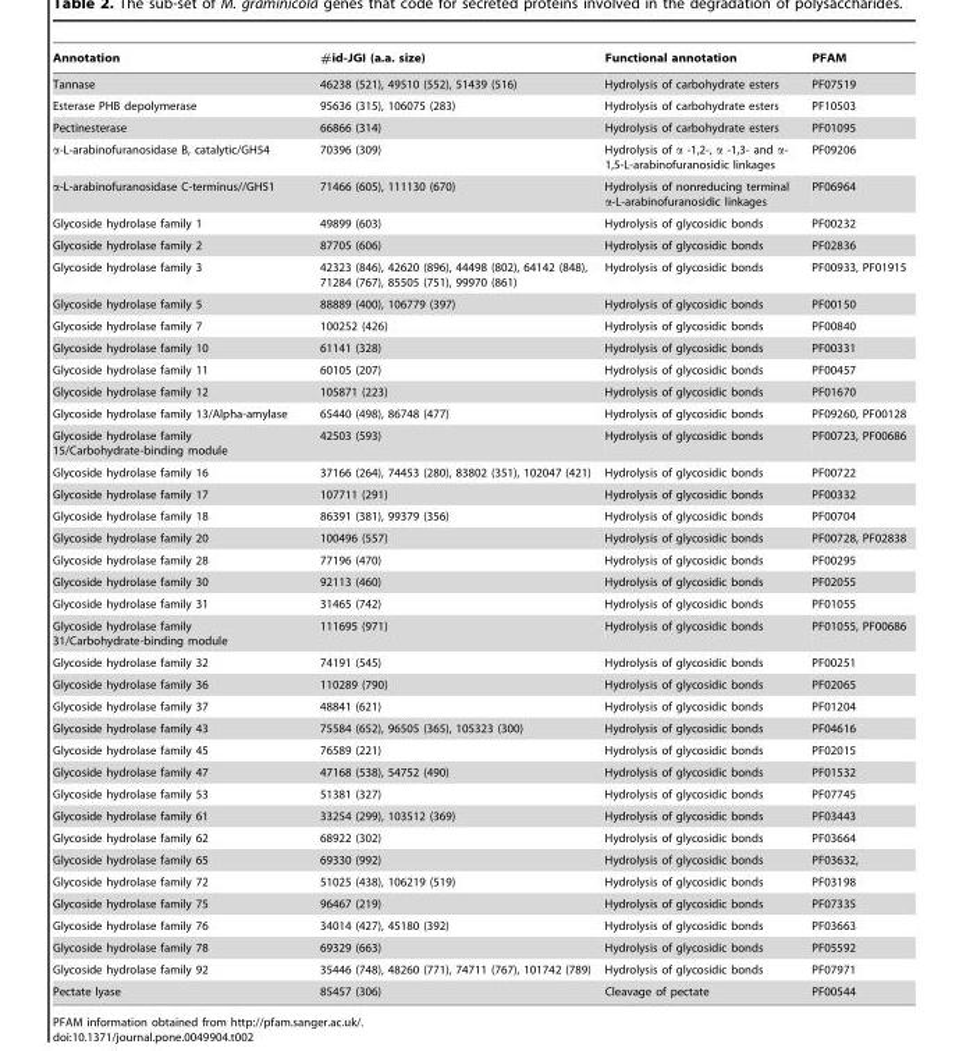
<table><thead><tr><td>Annotation</td><td>#id-JGI (a.a. size)</td><td>Functional annotation</td><td>PFAM</td></tr></thead><tbody><tr><td>Tannase</td><td>46238 (521), 49510 (552), 51439 (516)</td><td>Hydrolysis of carbohydrate esters</td><td>PF07519</td></tr><tr><td>Esterase PHB depolymerase</td><td>95636 (315), 106075 (283)</td><td>Hydrolysis of carbohydrate esters</td><td>PF10503</td></tr><tr><td>Pectinesterase</td><td>66866 (314)</td><td>Hydrolysis of carbohydrate esters</td><td>PF01095</td></tr><tr><td>α-L-arabinofuranosidase B, catalytic/GH54</td><td>70396 (309)</td><td>Hydrolysis of α -1,2-, α -1,3- and α- 1,5-L-arabinofuranosidic linkages</td><td>PF09206</td></tr><tr><td>α-L-arabinofuranosidase C-terminus//GH51</td><td>71466 (605), 111130 (670)</td><td>Hydrolysis of nonreducing terminal α-L-arabinofuranosidic linkages</td><td>PF06964</td></tr><tr><td>Glycoside hydrolase family 1</td><td>49899 (603)</td><td>Hydrolysis of glycosidic bonds</td><td>PF00232</td></tr><tr><td>Glycoside hydrolase family 2</td><td>87705 (606)</td><td>Hydrolysis of glycosidic bonds</td><td>PF02836</td></tr><tr><td>Glycoside hydrolase family 3</td><td>42323 (846), 42620 (896), 44498 (802), 64142 (848), 71284 (767), 85505 (751), 99970 (861)</td><td>Hydrolysis of glycosidic bonds</td><td>PF00933, PF01915</td></tr><tr><td>Glycoside hydrolase family 5</td><td>88889 (400), 106779 (397)</td><td>Hydrolysis of glycosidic bonds</td><td>PF00150</td></tr><tr><td>Glycoside hydrolase family 7</td><td>100252 (426)</td><td>Hydrolysis of glycosidic bonds</td><td>PF00840</td></tr><tr><td>Glycoside hydrolase family 10</td><td>61141 (328)</td><td>Hydrolysis of glycosidic bonds</td><td>PF00331</td></tr><tr><td>Glycoside hydrolase family 11</td><td>60105 (207)</td><td>Hydrolysis of glycosidic bonds</td><td>PF00457</td></tr><tr><td>Glycoside hydrolase family 12</td><td>105871 (223)</td><td>Hydrolysis of glycosidic bonds</td><td>PF01670</td></tr><tr><td>Glycoside hydrolase family 13/Alpha-amylase</td><td>65440 (498), 86748 (477)</td><td>Hydrolysis of glycosidic bonds</td><td>PF09260, PF00128</td></tr><tr><td>Glycoside hydrolase family 15/Carbohydrate-binding module</td><td>42503 (593)</td><td>Hydrolysis of glycosidic bonds</td><td>PF00723, PF00686</td></tr><tr><td>Glycoside hydrolase family 16</td><td>37166 (264), 74453 (280), 83802 (351), 102047 (421)</td><td>Hydrolysis of glycosidic bonds</td><td>PF00722</td></tr><tr><td>Glycoside hydrolase family 17</td><td>107711 (291)</td><td>Hydrolysis of glycosidic bonds</td><td>PF00332</td></tr><tr><td>Glycoside hydrolase family 18</td><td>86391 (381), 99379 (356)</td><td>Hydrolysis of glycosidic bonds</td><td>PF00704</td></tr><tr><td>Glycoside hydrolase family 20</td><td>100496 (557)</td><td>Hydrolysis of glycosidic bonds</td><td>PF00728, PF02838</td></tr><tr><td>Glycoside hydrolase family 28</td><td>77196 (470)</td><td>Hydrolysis of glycosidic bonds</td><td>PF00295</td></tr><tr><td>Glycoside hydrolase family 30</td><td>92113 (460)</td><td>Hydrolysis of glycosidic bonds</td><td>PF02055</td></tr><tr><td>Glycoside hydrolase family 31</td><td>31465 (742)</td><td>Hydrolysis of glycosidic bonds</td><td>PF01055</td></tr><tr><td>Glycoside hydrolase family 31/Carbohydrate-binding module</td><td>111695 (971)</td><td>Hydrolysis of glycosidic bonds</td><td>PF01055, PF00686</td></tr><tr><td>Glycoside hydrolase family 32</td><td>74191 (545)</td><td>Hydrolysis of glycosidic bonds</td><td>PF00251</td></tr><tr><td>Glycoside hydrolase family 36</td><td>110289 (790)</td><td>Hydrolysis of glycosidic bonds</td><td>PF02065</td></tr><tr><td>Glycoside hydrolase family 37</td><td>48841 (621)</td><td>Hydrolysis of glycosidic bonds</td><td>PF01204</td></tr><tr><td>Glycoside hydrolase family 43</td><td>75584 (652), 96505 (365), 105323 (300)</td><td>Hydrolysis of glycosidic bonds</td><td>PF04616</td></tr><tr><td>Glycoside hydrolase family 45</td><td>76589 (221)</td><td>Hydrolysis of glycosidic bonds</td><td>PF02015</td></tr><tr><td>Glycoside hydrolase family 47</td><td>47168 (538), 54752 (490)</td><td>Hydrolysis of glycosidic bonds</td><td>PF01532</td></tr><tr><td>Glycoside hydrolase family 53</td><td>51381 (327)</td><td>Hydrolysis of glycosidic bonds</td><td>PF07745</td></tr><tr><td>Glycoside hydrolase family 61</td><td>33254 (299), 103512 (369)</td><td>Hydrolysis of glycosidic bonds</td><td>PF03443</td></tr><tr><td>Glycoside hydrolase family 62</td><td>68922 (302)</td><td>Hydrolysis of glycosidic bonds</td><td>PF03664</td></tr><tr><td>Glycoside hydrolase family 65</td><td>69330 (992)</td><td>Hydrolysis of glycosidic bonds</td><td>PF03632,</td></tr><tr><td>Glycoside hydrolase family 72</td><td>51025 (438), 106219 (519)</td><td>Hydrolysis of glycosidic bonds</td><td>PF03198</td></tr><tr><td>Glycoside hydrolase family 75</td><td>96467 (219)</td><td>Hydrolysis of glycosidic bonds</td><td>PF07335</td></tr><tr><td>Glycoside hydrolase family 76</td><td>34014 (427), 45180 (392)</td><td>Hydrolysis of glycosidic bonds</td><td>PF03663</td></tr><tr><td>Glycoside hydrolase family 78</td><td>69329 (663)</td><td>Hydrolysis of glycosidic bonds</td><td>PF05592</td></tr><tr><td>Glycoside hydrolase family 92</td><td>35446 (748), 48260 (771), 74711 (767), 101742 (789)</td><td>Hydrolysis of glycosidic bonds</td><td>PF07971</td></tr><tr><td>Pectate lyase</td><td>85457 (306)</td><td>Cleavage of pectate</td><td>PF00544</td></tr></tbody></table>